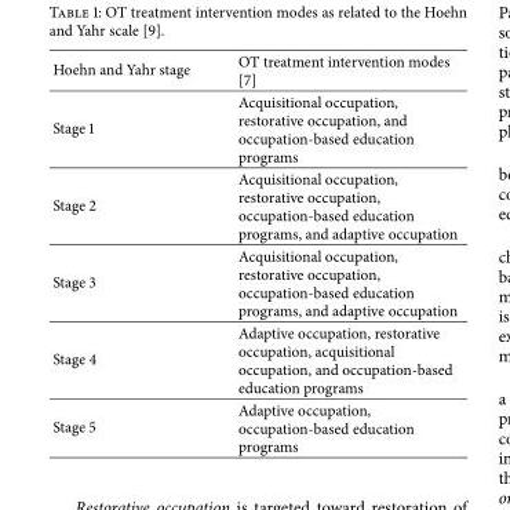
<table><tbody><tr><td>Hoehn and Yahr stage</td><td>OT treatment intervention modes [7]</td></tr><tr><td>Stage 1</td><td>Acquisitional occupation, restorative occupation, and occupation-based education programs</td></tr><tr><td>Stage 2</td><td>Acquisitional occupation, restorative occupation, occupation-based education programs, and adaptive occupation</td></tr><tr><td>Stage 3</td><td>Acquisitional occupation, restorative occupation, occupation-based education programs, and adaptive occupation</td></tr><tr><td>Stage 4</td><td>Adaptive occupation, restorative occupation, acquisitional occupation, and occupation-based education programs</td></tr><tr><td>Stage 5</td><td>Adaptive occupation, occupation-based education programs</td></tr></tbody></table>